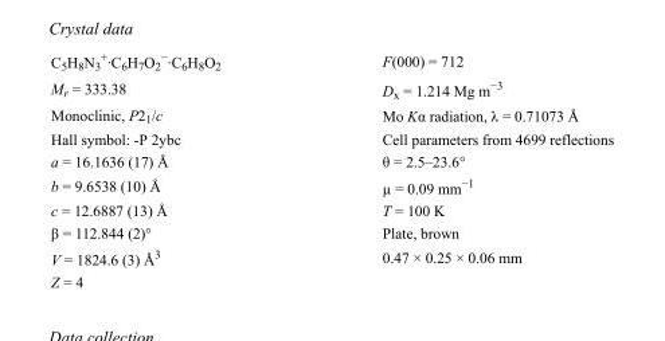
<table><tbody><tr><td>C<sub>5</sub>H<sub>8</sub>N<sub>3</sub> <sup>+</sup>·C<sub>6</sub>H<sub>7</sub>O<sub>2</sub> <sup>−</sup>·C<sub>6</sub>H<sub>8</sub>O<sub>2</sub></td><td>F(000) = 712</td></tr><tr><td>M<sub>r</sub> = 333.38</td><td>D<sub>x</sub> = 1.214 Mg m<sup>−3</sup></td></tr><tr><td>Monoclinic, P2<sub>1</sub>/c</td><td>Mo Kα radiation, λ = 0.71073 Å</td></tr><tr><td>Hall symbol: -P 2ybc</td><td>Cell parameters from 4699 reflections</td></tr><tr><td>a = 16.1636 (17) Å</td><td>θ = 2.5–23.6°</td></tr><tr><td>b = 9.6538 (10) Å</td><td>µ = 0.09 mm<sup>−1</sup></td></tr><tr><td>c = 12.6887 (13) Å</td><td>T = 100 K</td></tr><tr><td>β = 112.844 (2)°</td><td>Plate, brown</td></tr><tr><td>V = 1824.6 (3) Å<sup>3</sup></td><td>0.47 × 0.25 × 0.06 mm</td></tr><tr><td>Z = 4</td><td></td></tr></tbody></table>